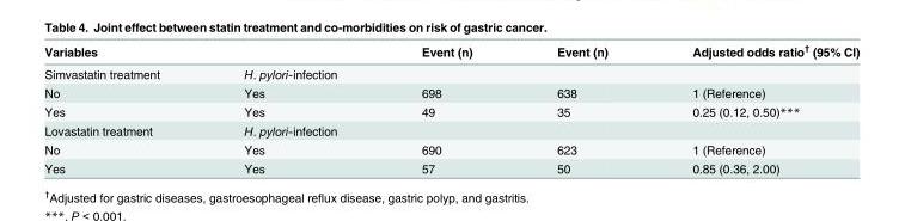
<table><thead><tr><td colspan="2">Variables</td><td rowspan="2">Event (n)</td><td rowspan="2">Event (n)</td><td rowspan="2">Adjusted odds ratio<sup>†</sup> (95% CI)</td></tr><tr><td>Simvastatin treatment</td><td>H. pylori-infection</td></tr></thead><tbody><tr><td>No</td><td>Yes</td><td>698</td><td>638</td><td>1 (Reference)</td></tr><tr><td>Yes</td><td>Yes</td><td>49</td><td>35</td><td>0.25 (0.12, 0.50)***</td></tr><tr><td>Lovastatin treatment</td><td>H. pylori-infection</td><td></td><td></td><td></td></tr><tr><td>No</td><td>Yes</td><td>690</td><td>623</td><td>1 (Reference)</td></tr><tr><td>Yes</td><td>Yes</td><td>57</td><td>50</td><td>0.85 (0.36, 2.00)</td></tr></tbody></table>